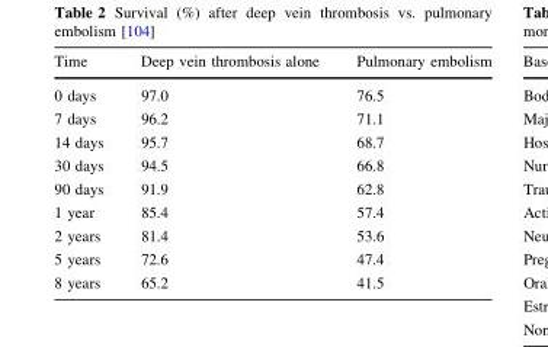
<table><thead><tr><td>Time</td><td>Deep vein thrombosis alone</td><td>Pulmonary embolism</td></tr></thead><tbody><tr><td>0 days</td><td>97.0</td><td>76.5</td></tr><tr><td>7 days</td><td>96.2</td><td>71.1</td></tr><tr><td>14 days</td><td>95.7</td><td>68.7</td></tr><tr><td>30 days</td><td>94.5</td><td>66.8</td></tr><tr><td>90 days</td><td>91.9</td><td>62.8</td></tr><tr><td>1 year</td><td>85.4</td><td>57.4</td></tr><tr><td>2 years</td><td>81.4</td><td>53.6</td></tr><tr><td>5 years</td><td>72.6</td><td>47.4</td></tr><tr><td>8 years</td><td>65.2</td><td>41.5</td></tr></tbody></table>